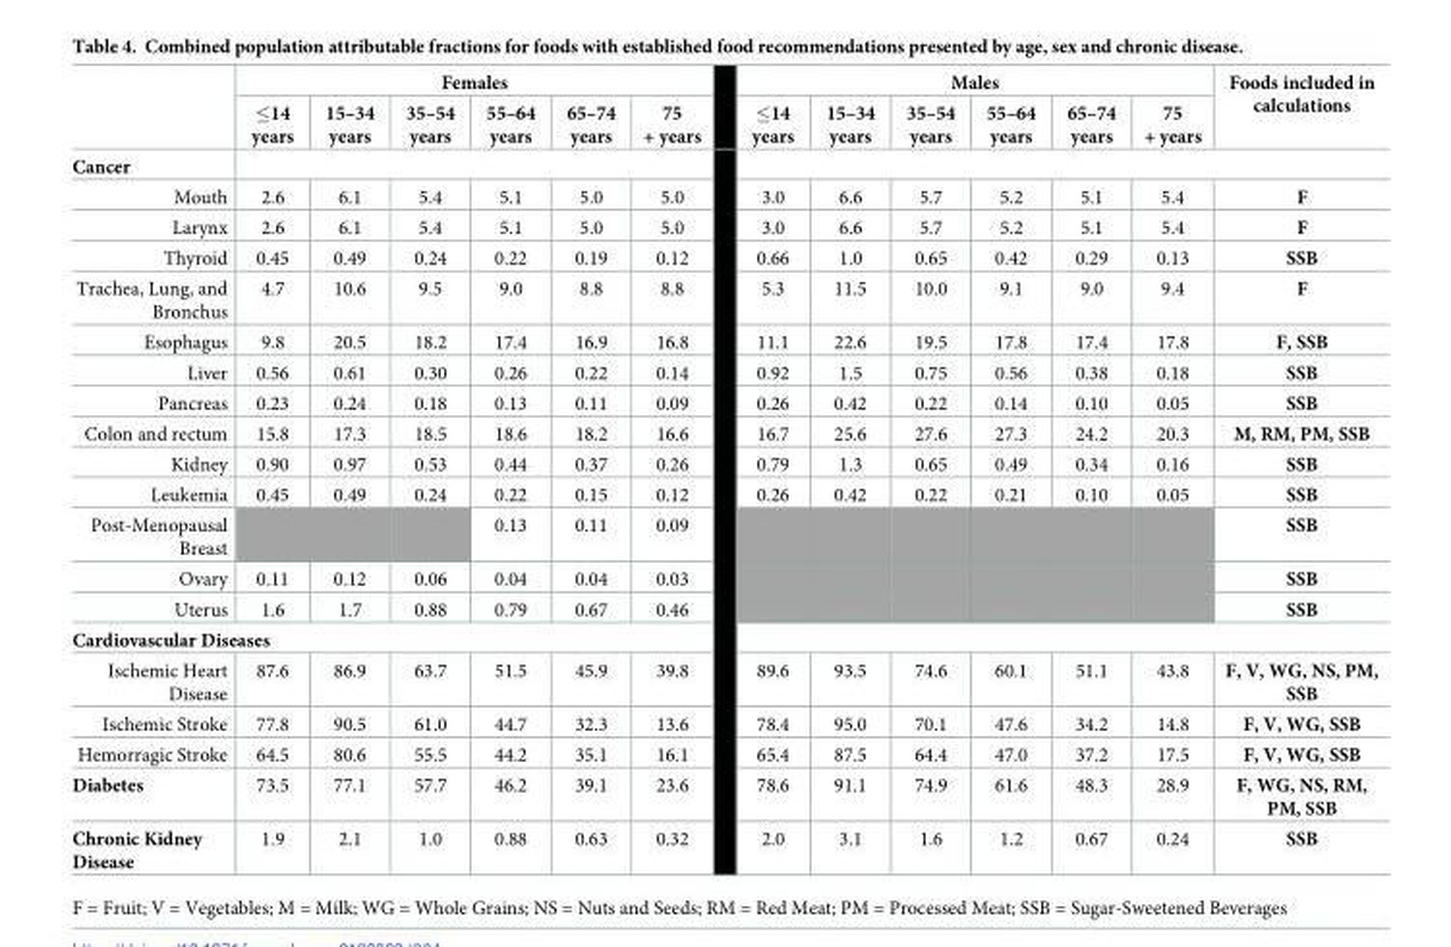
<table><thead><tr><td rowspan="2"></td><td colspan="6">Females</td><td colspan="6">Males</td><td rowspan="2">Foods included in calculations</td></tr><tr><td>≤14 years</td><td>15–34 years</td><td>35–54 years</td><td>55–64 years</td><td>65–74 years</td><td>75 + years</td><td>≤14 years</td><td>15–34 years</td><td>35–54 years</td><td>55–64 years</td><td>65–74 years</td><td>75 + years</td></tr></thead><tbody><tr><td colspan="14">Cancer</td></tr><tr><td>Mouth</td><td>2.6</td><td>6.1</td><td>5.4</td><td>5.1</td><td>5.0</td><td>5.0</td><td>3.0</td><td>6.6</td><td>5.7</td><td>5.2</td><td>5.1</td><td>5.4</td><td>F</td></tr><tr><td>Larynx</td><td>2.6</td><td>6.1</td><td>5.4</td><td>5.1</td><td>5.0</td><td>5.0</td><td>3.0</td><td>6.6</td><td>5.7</td><td>5.2</td><td>5.1</td><td>5.4</td><td>F</td></tr><tr><td>Thyroid</td><td>0.45</td><td>0.49</td><td>0.24</td><td>0.22</td><td>0.19</td><td>0.12</td><td>0.66</td><td>1.0</td><td>0.65</td><td>0.42</td><td>0.29</td><td>0.13</td><td>SSB</td></tr><tr><td>Trachea, Lung, and Bronchus</td><td>4.7</td><td>10.6</td><td>9.5</td><td>9.0</td><td>8.8</td><td>8.8</td><td>5.3</td><td>11.5</td><td>10.0</td><td>9.1</td><td>9.0</td><td>9.4</td><td>F</td></tr><tr><td>Esophagus</td><td>9.8</td><td>20.5</td><td>18.2</td><td>17.4</td><td>16.9</td><td>16.8</td><td>11.1</td><td>22.6</td><td>19.5</td><td>17.8</td><td>17.4</td><td>17.8</td><td>F, SSB</td></tr><tr><td>Liver</td><td>0.56</td><td>0.61</td><td>0.30</td><td>0.26</td><td>0.22</td><td>0.14</td><td>0.92</td><td>1.5</td><td>0.75</td><td>0.56</td><td>0.38</td><td>0.18</td><td>SSB</td></tr><tr><td>Pancreas</td><td>0.23</td><td>0.24</td><td>0.18</td><td>0.13</td><td>0.11</td><td>0.09</td><td>0.26</td><td>0.42</td><td>0.22</td><td>0.14</td><td>0.10</td><td>0.05</td><td>SSB</td></tr><tr><td>Colon and rectum</td><td>15.8</td><td>17.3</td><td>18.5</td><td>18.6</td><td>18.2</td><td>16.6</td><td>16.7</td><td>25.6</td><td>27.6</td><td>27.3</td><td>24.2</td><td>20.3</td><td>M, RM, PM, SSB</td></tr><tr><td>Kidney</td><td>0.90</td><td>0.97</td><td>0.53</td><td>0.44</td><td>0.37</td><td>0.26</td><td>0.79</td><td>1.3</td><td>0.65</td><td>0.49</td><td>0.34</td><td>0.16</td><td>SSB</td></tr><tr><td>Leukemia</td><td>0.45</td><td>0.49</td><td>0.24</td><td>0.22</td><td>0.15</td><td>0.12</td><td>0.26</td><td>0.42</td><td>0.22</td><td>0.21</td><td>0.10</td><td>0.05</td><td>SSB</td></tr><tr><td>Post-Menopausal Breast</td><td></td><td></td><td></td><td>0.13</td><td>0.11</td><td>0.09</td><td></td><td></td><td></td><td></td><td></td><td></td><td>SSB</td></tr><tr><td>Ovary</td><td>0.11</td><td>0.12</td><td>0.06</td><td>0.04</td><td>0.04</td><td>0.03</td><td></td><td></td><td></td><td></td><td></td><td></td><td>SSB</td></tr><tr><td>Uterus</td><td>1.6</td><td>1.7</td><td>0.88</td><td>0.79</td><td>0.67</td><td>0.46</td><td></td><td></td><td></td><td></td><td></td><td></td><td>SSB</td></tr><tr><td colspan="14">Cardiovascular Diseases</td></tr><tr><td>Ischemic Heart Disease</td><td>87.6</td><td>86.9</td><td>63.7</td><td>51.5</td><td>45.9</td><td>39.8</td><td>89.6</td><td>93.5</td><td>74.6</td><td>60.1</td><td>51.1</td><td>43.8</td><td>F, V, WG, NS, PM, SSB</td></tr><tr><td>Ischemic Stroke</td><td>77.8</td><td>90.5</td><td>61.0</td><td>44.7</td><td>32.3</td><td>13.6</td><td>78.4</td><td>95.0</td><td>70.1</td><td>47.6</td><td>34.2</td><td>14.8</td><td>F, V, WG, SSB</td></tr><tr><td>Hemorragic Stroke</td><td>64.5</td><td>80.6</td><td>55.5</td><td>44.2</td><td>35.1</td><td>16.1</td><td>65.4</td><td>87.5</td><td>64.4</td><td>47.0</td><td>37.2</td><td>17.5</td><td>F, V, WG, SSB</td></tr><tr><td>Diabetes</td><td>73.5</td><td>77.1</td><td>57.7</td><td>46.2</td><td>39.1</td><td>23.6</td><td>78.6</td><td>91.1</td><td>74.9</td><td>61.6</td><td>48.3</td><td>28.9</td><td>F, WG, NS, RM, PM, SSB</td></tr><tr><td>Chronic Kidney Disease</td><td>1.9</td><td>2.1</td><td>1.0</td><td>0.88</td><td>0.63</td><td>0.32</td><td>2.0</td><td>3.1</td><td>1.6</td><td>1.2</td><td>0.67</td><td>0.24</td><td>SSB</td></tr></tbody></table>